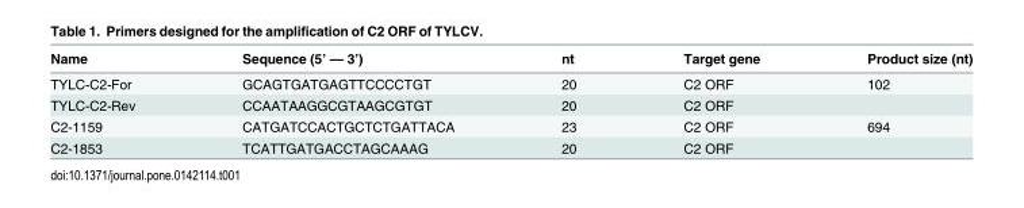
<table><thead><tr><td>Name</td><td>Sequence (5’ — 3’)</td><td>nt</td><td>Target gene</td><td>Product size (nt)</td></tr></thead><tbody><tr><td>TYLC-C2-For</td><td>GCAGTGATGAGTTCCCCTGT</td><td>20</td><td>C2 ORF</td><td>102</td></tr><tr><td>TYLC-C2-Rev</td><td>CCAATAAGGCGTAAGCGTGT</td><td>20</td><td>C2 ORF</td><td></td></tr><tr><td>C2-1159</td><td>CATGATCCACTGCTCTGATTACA</td><td>23</td><td>C2 ORF</td><td>694</td></tr><tr><td>C2-1853</td><td>TCATTGATGACCTAGCAAAG</td><td>20</td><td>C2 ORF</td><td></td></tr></tbody></table>